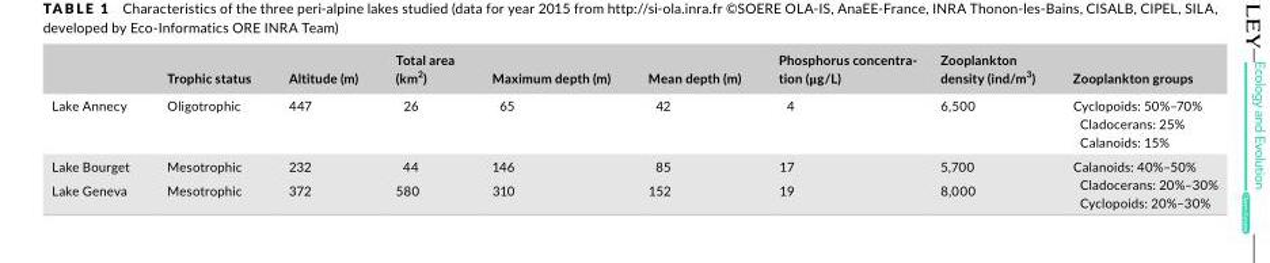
<table><thead><tr><td></td><td>Trophic status</td><td>Altitude (m)</td><td>Total area (km<sup>2</sup>)</td><td>Maximum depth (m)</td><td>Mean depth (m)</td><td>Phosphorus concentra- tion (μg/L)</td><td>Zooplankton density (ind/m<sup>3</sup>)</td><td>Zooplankton groups</td></tr></thead><tbody><tr><td>Lake Annecy</td><td>Oligotrophic</td><td>447</td><td>26</td><td>65</td><td>42</td><td>4</td><td>6,500</td><td>Cyclopoids: 50%–70% Cladocerans: 25% Calanoids: 15%</td></tr><tr><td>Lake Bourget</td><td>Mesotrophic</td><td>232</td><td>44</td><td>146</td><td>85</td><td>17</td><td>5,700</td><td rowspan="2">Calanoids: 40%–50% Cladocerans: 20%–30% Cyclopoids: 20%–30%</td></tr><tr><td>Lake Geneva</td><td>Mesotrophic</td><td>372</td><td>580</td><td>310</td><td>152</td><td>19</td><td>8,000</td></tr></tbody></table>